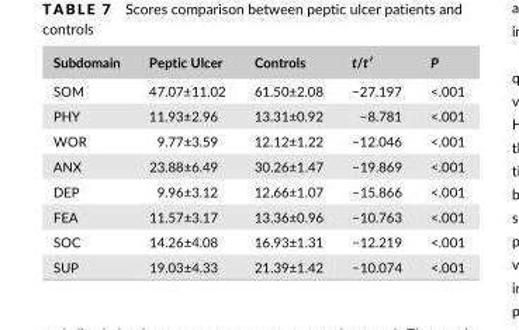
<table><thead><tr><td>Subdomain</td><td>Peptic Ulcer</td><td>Controls</td><td>t/t′</td><td>P</td></tr></thead><tbody><tr><td>SOM</td><td>47.07±11.02</td><td>61.50±2.08</td><td>−27.197</td><td>&lt;.001</td></tr><tr><td>PHY</td><td>11.93±2.96</td><td>13.31±0.92</td><td>−8.781</td><td>&lt;.001</td></tr><tr><td>WOR</td><td>9.77±3.59</td><td>12.12±1.22</td><td>−12.046</td><td>&lt;.001</td></tr><tr><td>ANX</td><td>23.88±6.49</td><td>30.26±1.47</td><td>−19.869</td><td>&lt;.001</td></tr><tr><td>DEP</td><td>9.96±3.12</td><td>12.66±1.07</td><td>−15.866</td><td>&lt;.001</td></tr><tr><td>FEA</td><td>11.57±3.17</td><td>13.36±0.96</td><td>−10.763</td><td>&lt;.001</td></tr><tr><td>SOC</td><td>14.26±4.08</td><td>16.93±1.31</td><td>−12.219</td><td>&lt;.001</td></tr><tr><td>SUP</td><td>19.03±4.33</td><td>21.39±1.42</td><td>−10.074</td><td>&lt;.001</td></tr></tbody></table>